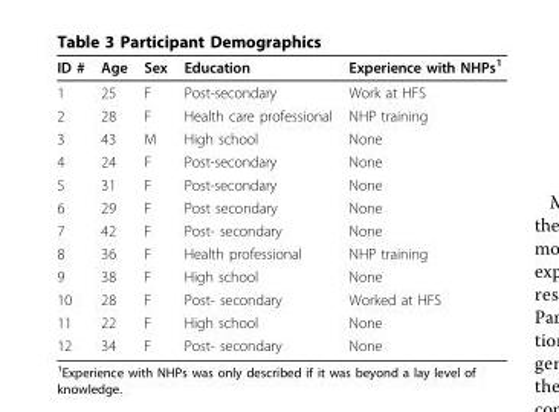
<table><thead><tr><td>ID #</td><td>Age</td><td>Sex</td><td>Education</td><td>Experience with NHPs<sup>1</sup></td></tr></thead><tbody><tr><td>1</td><td>25</td><td>F</td><td>Post-secondary</td><td>Work at HFS</td></tr><tr><td>2</td><td>28</td><td>F</td><td>Health care professional</td><td>NHP training</td></tr><tr><td>3</td><td>43</td><td>M</td><td>High school</td><td>None</td></tr><tr><td>4</td><td>24</td><td>F</td><td>Post-secondary</td><td>None</td></tr><tr><td>5</td><td>31</td><td>F</td><td>Post-secondary</td><td>None</td></tr><tr><td>6</td><td>29</td><td>F</td><td>Post secondary</td><td>None</td></tr><tr><td>7</td><td>42</td><td>F</td><td>Post- secondary</td><td>None</td></tr><tr><td>8</td><td>36</td><td>F</td><td>Health professional</td><td>NHP training</td></tr><tr><td>9</td><td>38</td><td>F</td><td>High school</td><td>None</td></tr><tr><td>10</td><td>28</td><td>F</td><td>Post- secondary</td><td>Worked at HFS</td></tr><tr><td>11</td><td>22</td><td>F</td><td>High school</td><td>None</td></tr><tr><td>12</td><td>34</td><td>F</td><td>Post- secondary</td><td>None</td></tr></tbody></table>